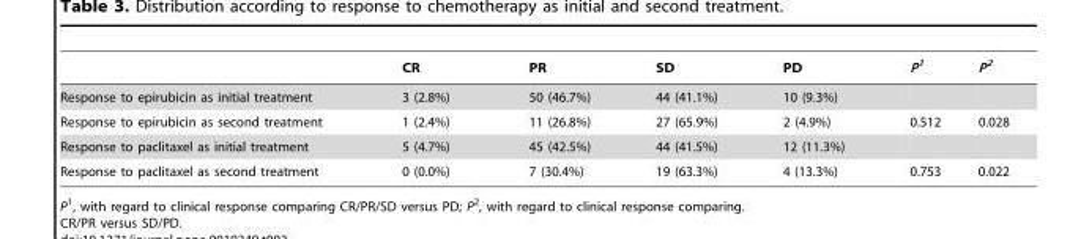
<table><thead><tr><td></td><td>CR</td><td>PR</td><td>SD</td><td>PD</td><td>P<sup>1</sup></td><td>P<sup>2</sup></td></tr></thead><tbody><tr><td>Response to epirubicin as initial treatment</td><td>3 (2.8%)</td><td>50 (46.7%)</td><td>44 (41.1%)</td><td>10 (9.3%)</td><td></td><td></td></tr><tr><td>Response to epirubicin as second treatment</td><td>1 (2.4%)</td><td>11 (26.8%)</td><td>27 (65.9%)</td><td>2 (4.9%)</td><td>0.512</td><td>0.028</td></tr><tr><td>Response to paclitaxel as initial treatment</td><td>5 (4.7%)</td><td>45 (42.5%)</td><td>44 (41.5%)</td><td>12 (11.3%)</td><td></td><td></td></tr><tr><td>Response to paclitaxel as second treatment</td><td>0 (0.0%)</td><td>7 (30.4%)</td><td>19 (63.3%)</td><td>4 (13.3%)</td><td>0.753</td><td>0.022</td></tr></tbody></table>